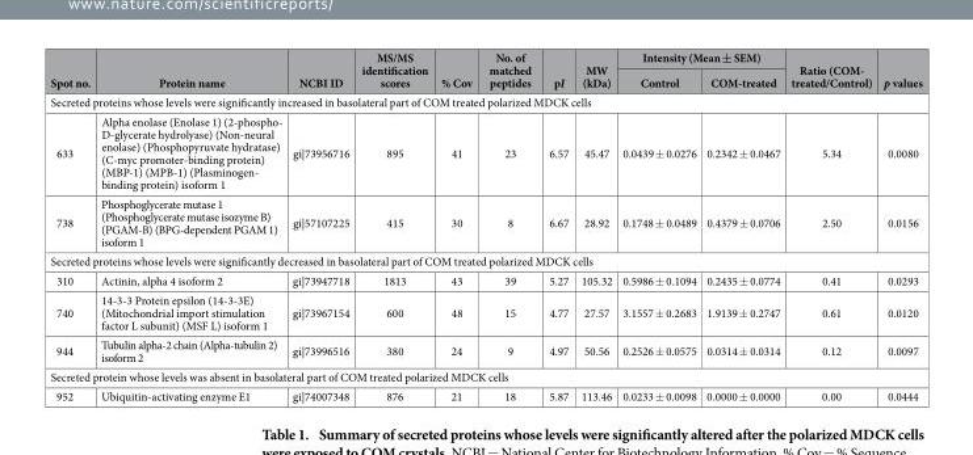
<table><thead><tr><td rowspan="2">Spot no.</td><td rowspan="2">Protein name</td><td rowspan="2">NCBI ID</td><td rowspan="2">MS/MS identification scores</td><td rowspan="2">% Cov</td><td rowspan="2">No. of matched peptides</td><td rowspan="2">pI</td><td rowspan="2">MW (kDa)</td><td colspan="2">Intensity (Mean ± SEM)</td><td rowspan="2">Ratio (COM- treated/Control)</td><td rowspan="2">p values</td></tr><tr><td>Control</td><td>COM-treated</td></tr></thead><tbody><tr><td colspan="12">Secreted proteins whose levels were significantly increased in basolateral part of COM treated polarized MDCK cells</td></tr><tr><td>633</td><td>Alpha enolase (Enolase 1) (2-phospho- D-glycerate hydrolyase) (Non-neural enolase) (Phosphopyruvate hydratase) (C-myc promoter-binding protein) (MBP-1) (MPB-1) (Plasminogen- binding protein) isoform 1</td><td>gi|73956716</td><td>895</td><td>41</td><td>23</td><td>6.57</td><td>45.47</td><td>0.0439 ± 0.0276</td><td>0.2342 ± 0.0467</td><td>5.34</td><td>0.0080</td></tr><tr><td>738</td><td>Phosphoglycerate mutase 1 (Phosphoglycerate mutase isozyme B) (PGAM-B) (BPG-dependent PGAM 1) isoform 1</td><td>gi|57107225</td><td>415</td><td>30</td><td>8</td><td>6.67</td><td>28.92</td><td>0.1748 ± 0.0489</td><td>0.4379 ± 0.0706</td><td>2.50</td><td>0.0156</td></tr><tr><td colspan="12">Secreted proteins whose levels were significantly decreased in basolateral part of COM treated polarized MDCK cells</td></tr><tr><td>310</td><td>Actinin, alpha 4 isoform 2</td><td>gi|73947718</td><td>1813</td><td>43</td><td>39</td><td>5.27</td><td>105.32</td><td>0.5986 ± 0.1094</td><td>0.2435 ± 0.0774</td><td>0.41</td><td>0.0293</td></tr><tr><td>740</td><td>14-3-3 Protein epsilon (14-3-3E) (Mitochondrial import stimulation factor L subunit) (MSF L) isoform 1</td><td>gi|73967154</td><td>600</td><td>48</td><td>15</td><td>4.77</td><td>27.57</td><td>3.1557 ± 0.2683</td><td>1.9139 ± 0.2747</td><td>0.61</td><td>0.0120</td></tr><tr><td>944</td><td>Tubulin alpha-2 chain (Alpha-tubulin 2) isoform 2</td><td>gi|73996516</td><td>380</td><td>24</td><td>9</td><td>4.97</td><td>50.56</td><td>0.2526 ± 0.0575</td><td>0.0314 ± 0.0314</td><td>0.12</td><td>0.0097</td></tr><tr><td colspan="12">Secreted protein whose levels was absent in basolateral part of COM treated polarized MDCK cells</td></tr><tr><td>952</td><td>Ubiquitin-activating enzyme E1</td><td>gi|74007348</td><td>876</td><td>21</td><td>18</td><td>5.87</td><td>113.46</td><td>0.0233 ± 0.0098</td><td>0.0000 ± 0.0000</td><td>0.00</td><td>0.0444</td></tr></tbody></table>